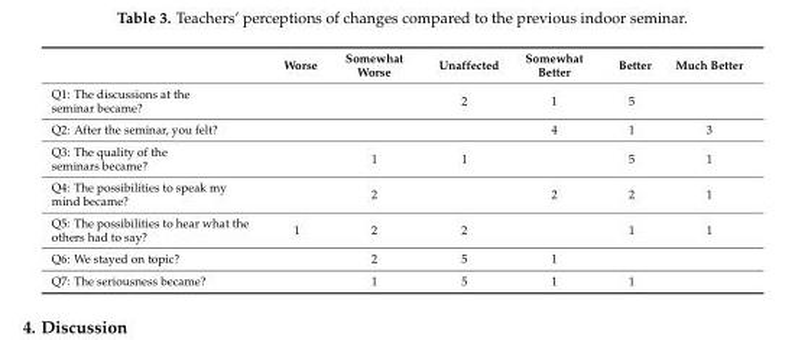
<table><thead><tr><td></td><td>Worse</td><td>Somewhat Worse</td><td>Unaffected</td><td>Somewhat Better</td><td>Better</td><td>Much Better</td></tr></thead><tbody><tr><td>Q1: The discussions at the seminar became?</td><td></td><td></td><td>2</td><td>1</td><td>5</td><td></td></tr><tr><td>Q2: After the seminar, you felt?</td><td></td><td></td><td></td><td>4</td><td>1</td><td>3</td></tr><tr><td>Q3: The quality of the seminars became?</td><td></td><td>1</td><td>1</td><td></td><td>5</td><td>1</td></tr><tr><td>Q4: The possibilities to speak my mind became?</td><td></td><td>2</td><td></td><td>2</td><td>2</td><td>1</td></tr><tr><td>Q5: The possibilities to hear what the others had to say?</td><td>1</td><td>2</td><td>2</td><td></td><td>1</td><td>1</td></tr><tr><td>Q6: We stayed on topic?</td><td></td><td>2</td><td>5</td><td>1</td><td></td><td></td></tr><tr><td>Q7: The seriousness became?</td><td></td><td>1</td><td>5</td><td>1</td><td>1</td><td></td></tr></tbody></table>